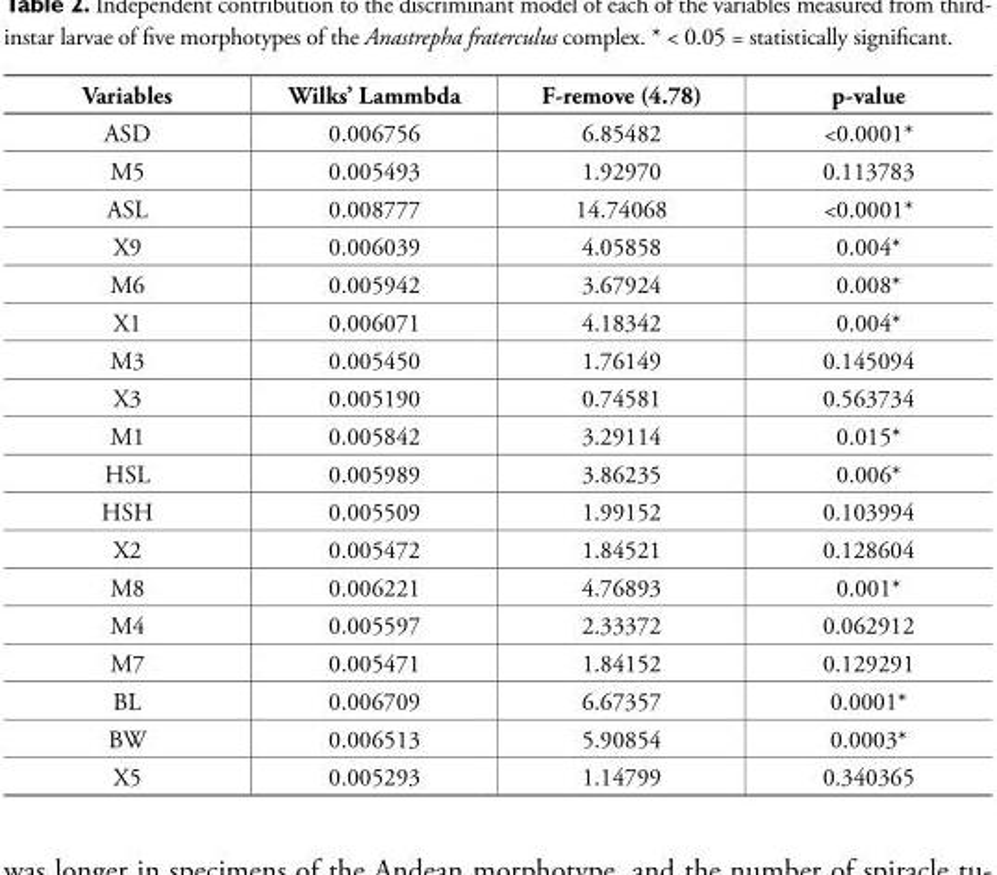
<table><thead><tr><td>Variables</td><td>Wilks’ Lammbda</td><td>F-remove (4.78)</td><td>p-value</td></tr></thead><tbody><tr><td>ASD</td><td>0.006756</td><td>6.85482</td><td>&lt;0.0001*</td></tr><tr><td>M5</td><td>0.005493</td><td>1.92970</td><td>0.113783</td></tr><tr><td>ASL</td><td>0.008777</td><td>14.74068</td><td>&lt;0.0001*</td></tr><tr><td>X9</td><td>0.006039</td><td>4.05858</td><td>0.004*</td></tr><tr><td>M6</td><td>0.005942</td><td>3.67924</td><td>0.008*</td></tr><tr><td>X1</td><td>0.006071</td><td>4.18342</td><td>0.004*</td></tr><tr><td>M3</td><td>0.005450</td><td>1.76149</td><td>0.145094</td></tr><tr><td>X3</td><td>0.005190</td><td>0.74581</td><td>0.563734</td></tr><tr><td>M1</td><td>0.005842</td><td>3.29114</td><td>0.015*</td></tr><tr><td>HSL</td><td>0.005989</td><td>3.86235</td><td>0.006*</td></tr><tr><td>HSH</td><td>0.005509</td><td>1.99152</td><td>0.103994</td></tr><tr><td>X2</td><td>0.005472</td><td>1.84521</td><td>0.128604</td></tr><tr><td>M8</td><td>0.006221</td><td>4.76893</td><td>0.001*</td></tr><tr><td>M4</td><td>0.005597</td><td>2.33372</td><td>0.062912</td></tr><tr><td>M7</td><td>0.005471</td><td>1.84152</td><td>0.129291</td></tr><tr><td>BL</td><td>0.006709</td><td>6.67357</td><td>0.0001*</td></tr><tr><td>BW</td><td>0.006513</td><td>5.90854</td><td>0.0003*</td></tr><tr><td>X5</td><td>0.005293</td><td>1.14799</td><td>0.340365</td></tr></tbody></table>